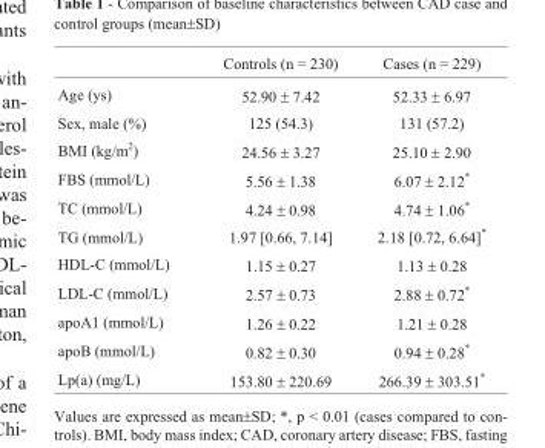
<table><thead><tr><td></td><td>Controls (n = 230)</td><td>Cases (n = 229)</td></tr></thead><tbody><tr><td>Age (ys)</td><td>52.90 ± 7.42</td><td>52.33 ± 6.97</td></tr><tr><td>Sex, male (%)</td><td>125 (54.3)</td><td>131 (57.2)</td></tr><tr><td>BMI (kg/m<sup>2</sup>)</td><td>24.56 ± 3.27</td><td>25.10 ± 2.90</td></tr><tr><td>FBS (mmol/L)</td><td>5.56 ± 1.38</td><td>6.07 ± 2.12*</td></tr><tr><td>TC (mmol/L)</td><td>4.24 ± 0.98</td><td>4.74 ± 1.06*</td></tr><tr><td>TG (mmol/L)</td><td>1.97 [0.66, 7.14]</td><td>2.18 [0.72, 6.64]*</td></tr><tr><td>HDL-C (mmol/L)</td><td>1.15 ± 0.27</td><td>1.13 ± 0.28</td></tr><tr><td>LDL-C (mmol/L)</td><td>2.57 ± 0.73</td><td>2.88 ± 0.72*</td></tr><tr><td>apoA1 (mmol/L)</td><td>1.26 ± 0.22</td><td>1.21 ± 0.28</td></tr><tr><td>apoB (mmol/L)</td><td>0.82 ± 0.30</td><td>0.94 ± 0.28*</td></tr><tr><td>Lp(a) (mg/L)</td><td>153.80 ± 220.69</td><td>266.39 ± 303.51*</td></tr></tbody></table>